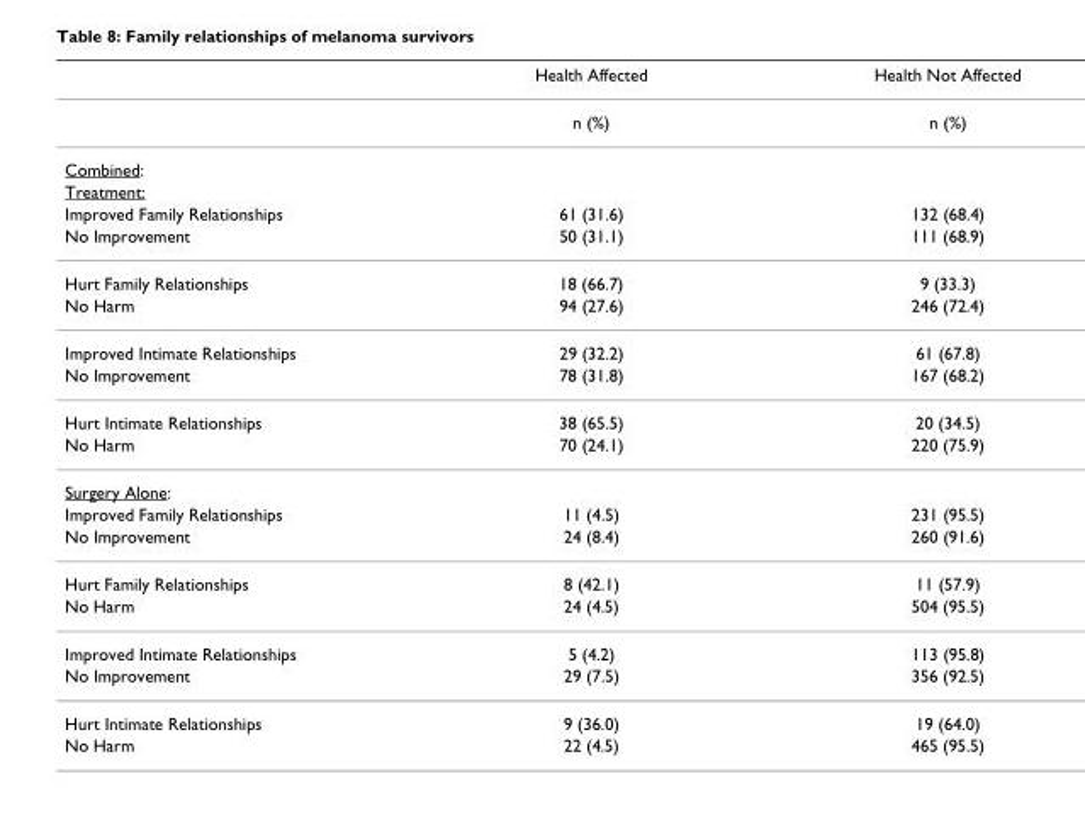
<table><thead><tr><td></td><td>Health Affected</td><td>Health Not Affected</td></tr></thead><tbody><tr><td></td><td>n (%)</td><td>n (%)</td></tr><tr><td colspan="3">Combined:</td></tr><tr><td colspan="3">Treatment:</td></tr><tr><td>Improved Family Relationships</td><td>61 (31.6)</td><td>132 (68.4)</td></tr><tr><td>No Improvement</td><td>50 (31.1)</td><td>111 (68.9)</td></tr><tr><td>Hurt Family Relationships</td><td>18 (66.7)</td><td>9 (33.3)</td></tr><tr><td>No Harm</td><td>94 (27.6)</td><td>246 (72.4)</td></tr><tr><td>Improved Intimate Relationships</td><td>29 (32.2)</td><td>61 (67.8)</td></tr><tr><td>No Improvement</td><td>78 (31.8)</td><td>167 (68.2)</td></tr><tr><td>Hurt Intimate Relationships</td><td>38 (65.5)</td><td>20 (34.5)</td></tr><tr><td>No Harm</td><td>70 (24.1)</td><td>220 (75.9)</td></tr><tr><td colspan="3">Surgery Alone:</td></tr><tr><td>Improved Family Relationships</td><td>11 (4.5)</td><td>231 (95.5)</td></tr><tr><td>No Improvement</td><td>24 (8.4)</td><td>260 (91.6)</td></tr><tr><td>Hurt Family Relationships</td><td>8 (42.1)</td><td>11 (57.9)</td></tr><tr><td>No Harm</td><td>24 (4.5)</td><td>504 (95.5)</td></tr><tr><td>Improved Intimate Relationships</td><td>5 (4.2)</td><td>113 (95.8)</td></tr><tr><td>No Improvement</td><td>29 (7.5)</td><td>356 (92.5)</td></tr><tr><td>Hurt Intimate Relationships</td><td>9 (36.0)</td><td>19 (64.0)</td></tr><tr><td>No Harm</td><td>22 (4.5)</td><td>465 (95.5)</td></tr></tbody></table>